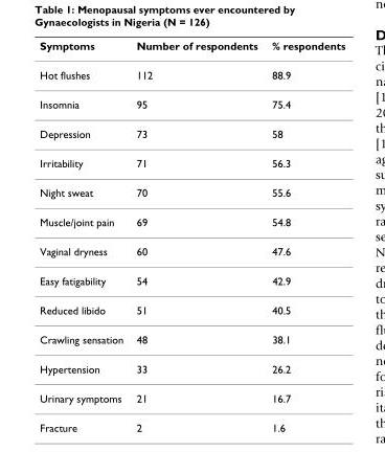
<table><thead><tr><td>Symptoms</td><td>Number of respondents</td><td>% respondents</td></tr></thead><tbody><tr><td>Hot flushes</td><td>112</td><td>88.9</td></tr><tr><td>Insomnia</td><td>95</td><td>75.4</td></tr><tr><td>Depression</td><td>73</td><td>58</td></tr><tr><td>Irritability</td><td>71</td><td>56.3</td></tr><tr><td>Night sweat</td><td>70</td><td>55.6</td></tr><tr><td>Muscle/joint pain</td><td>69</td><td>54.8</td></tr><tr><td>Vaginal dryness</td><td>60</td><td>47.6</td></tr><tr><td>Easy fatigability</td><td>54</td><td>42.9</td></tr><tr><td>Reduced libido</td><td>51</td><td>40.5</td></tr><tr><td>Crawling sensation</td><td>48</td><td>38.1</td></tr><tr><td>Hypertension</td><td>33</td><td>26.2</td></tr><tr><td>Urinary symptoms</td><td>21</td><td>16.7</td></tr><tr><td>Fracture</td><td>2</td><td>1.6</td></tr></tbody></table>